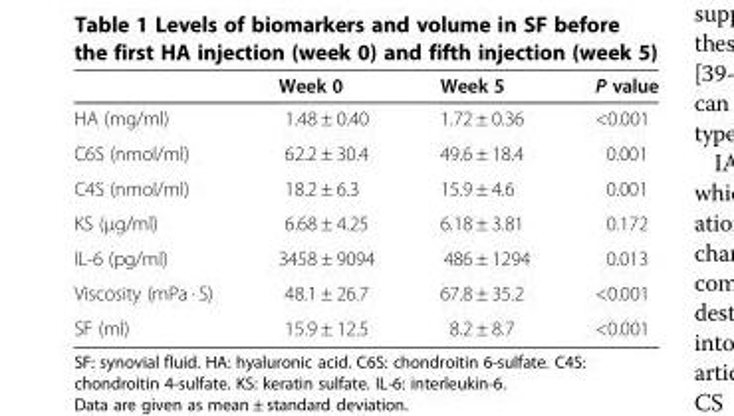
<table><thead><tr><td></td><td>Week 0</td><td>Week 5</td><td>P value</td></tr></thead><tbody><tr><td>HA (mg/ml)</td><td>1.48 ± 0.40</td><td>1.72 ± 0.36</td><td>&lt;0.001</td></tr><tr><td>C6S (nmol/ml)</td><td>62.2 ± 30.4</td><td>49.6 ± 18.4</td><td>0.001</td></tr><tr><td>C4S (nmol/ml)</td><td>18.2 ± 6.3</td><td>15.9 ± 4.6</td><td>0.001</td></tr><tr><td>KS (μg/ml)</td><td>6.68 ± 4.25</td><td>6.18 ± 3.81</td><td>0.172</td></tr><tr><td>IL-6 (pg/ml)</td><td>3458 ± 9094</td><td>486 ± 1294</td><td>0.013</td></tr><tr><td>Viscosity (mPa · S)</td><td>48.1 ± 26.7</td><td>67.8 ± 35.2</td><td>&lt;0.001</td></tr><tr><td>SF (ml)</td><td>15.9 ± 12.5</td><td>8.2 ± 8.7</td><td>&lt;0.001</td></tr></tbody></table>